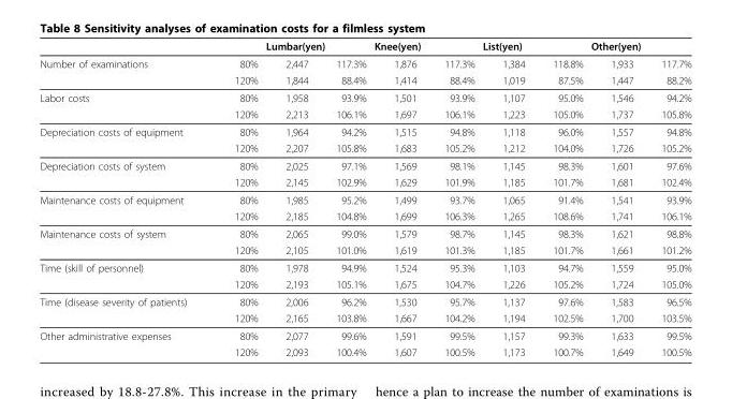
<table><thead><tr><td rowspan="2">Number of examinations</td><td rowspan="2">80%</td><td colspan="2">Lumbar(yen)</td><td colspan="2">Knee(yen)</td><td colspan="2">List(yen)</td><td colspan="2">Other(yen)</td></tr><tr><td>2,447</td><td>117.3%</td><td>1,876</td><td>117.3%</td><td>1,384</td><td>118.8%</td><td>1,933</td><td>117.7%</td></tr></thead><tbody><tr><td></td><td>120%</td><td>1,844</td><td>88.4%</td><td>1,414</td><td>88.4%</td><td>1,019</td><td>87.5%</td><td>1,447</td><td>88.2%</td></tr><tr><td rowspan="2">Labor costs</td><td>80%</td><td>1,958</td><td>93.9%</td><td>1,501</td><td>93.9%</td><td>1,107</td><td>95.0%</td><td>1,546</td><td>94.2%</td></tr><tr><td>120%</td><td>2,213</td><td>106.1%</td><td>1,697</td><td>106.1%</td><td>1,223</td><td>105.0%</td><td>1,737</td><td>105.8%</td></tr><tr><td rowspan="2">Depreciation costs of equipment</td><td>80%</td><td>1,964</td><td>94.2%</td><td>1,515</td><td>94.8%</td><td>1,118</td><td>96.0%</td><td>1,557</td><td>94.8%</td></tr><tr><td>120%</td><td>2,207</td><td>105.8%</td><td>1,683</td><td>105.2%</td><td>1,212</td><td>104.0%</td><td>1,726</td><td>105.2%</td></tr><tr><td rowspan="2">Depreciation costs of system</td><td>80%</td><td>2,025</td><td>97.1%</td><td>1,569</td><td>98.1%</td><td>1,145</td><td>98.3%</td><td>1,601</td><td>97.6%</td></tr><tr><td>120%</td><td>2,145</td><td>102.9%</td><td>1,629</td><td>101.9%</td><td>1,185</td><td>101.7%</td><td>1,681</td><td>102.4%</td></tr><tr><td rowspan="2">Maintenance costs of equipment</td><td>80%</td><td>1,985</td><td>95.2%</td><td>1,499</td><td>93.7%</td><td>1,065</td><td>91.4%</td><td>1,541</td><td>93.9%</td></tr><tr><td>120%</td><td>2,185</td><td>104.8%</td><td>1,699</td><td>106.3%</td><td>1,265</td><td>108.6%</td><td>1,741</td><td>106.1%</td></tr><tr><td rowspan="2">Maintenance costs of system</td><td>80%</td><td>2,065</td><td>99.0%</td><td>1,579</td><td>98.7%</td><td>1,145</td><td>98.3%</td><td>1,621</td><td>98.8%</td></tr><tr><td>120%</td><td>2,105</td><td>101.0%</td><td>1,619</td><td>101.3%</td><td>1,185</td><td>101.7%</td><td>1,661</td><td>101.2%</td></tr><tr><td rowspan="2">Time (skill of personnel)</td><td>80%</td><td>1,978</td><td>94.9%</td><td>1,524</td><td>95.3%</td><td>1,103</td><td>94.7%</td><td>1,559</td><td>95.0%</td></tr><tr><td>120%</td><td>2,193</td><td>105.1%</td><td>1,675</td><td>104.7%</td><td>1,226</td><td>105.2%</td><td>1,724</td><td>105.0%</td></tr><tr><td rowspan="2">Time (disease severity of patients)</td><td>80%</td><td>2,006</td><td>96.2%</td><td>1,530</td><td>95.7%</td><td>1,137</td><td>97.6%</td><td>1,583</td><td>96.5%</td></tr><tr><td>120%</td><td>2,165</td><td>103.8%</td><td>1,667</td><td>104.2%</td><td>1,194</td><td>102.5%</td><td>1,700</td><td>103.5%</td></tr><tr><td rowspan="2">Other administrative expenses</td><td>80%</td><td>2,077</td><td>99.6%</td><td>1,591</td><td>99.5%</td><td>1,157</td><td>99.3%</td><td>1,633</td><td>99.5%</td></tr><tr><td>120%</td><td>2,093</td><td>100.4%</td><td>1,607</td><td>100.5%</td><td>1,173</td><td>100.7%</td><td>1,649</td><td>100.5%</td></tr></tbody></table>